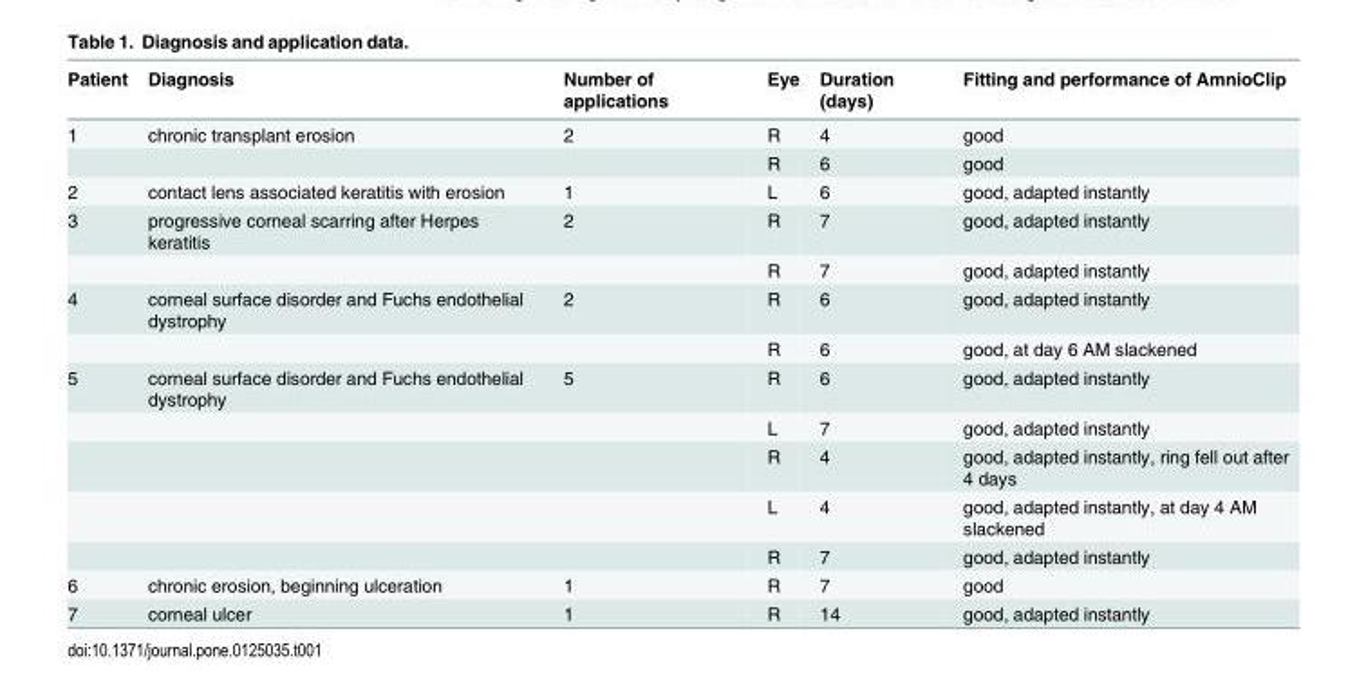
<table><thead><tr><td>Patient</td><td>Diagnosis</td><td>Number of applications</td><td>Eye</td><td>Duration (days)</td><td>Fitting and performance of AmnioClip</td></tr></thead><tbody><tr><td rowspan="2">1</td><td>chronic transplant erosion</td><td>2</td><td>R</td><td>4</td><td>good</td></tr><tr><td></td><td></td><td>R</td><td>6</td><td>good</td></tr><tr><td>2</td><td>contact lens associated keratitis with erosion</td><td>1</td><td>L</td><td>6</td><td>good, adapted instantly</td></tr><tr><td rowspan="2">3</td><td>progressive corneal scarring after Herpes keratitis</td><td>2</td><td>R</td><td>7</td><td>good, adapted instantly</td></tr><tr><td></td><td></td><td>R</td><td>7</td><td>good, adapted instantly</td></tr><tr><td rowspan="2">4</td><td>corneal surface disorder and Fuchs endothelial dystrophy</td><td>2</td><td>R</td><td>6</td><td>good, adapted instantly</td></tr><tr><td></td><td></td><td>R</td><td>6</td><td>good, at day 6 AM slackened</td></tr><tr><td rowspan="5">5</td><td>corneal surface disorder and Fuchs endothelial dystrophy</td><td>5</td><td>R</td><td>6</td><td>good, adapted instantly</td></tr><tr><td></td><td></td><td>L</td><td>7</td><td>good, adapted instantly</td></tr><tr><td></td><td></td><td>R</td><td>4</td><td>good, adapted instantly, ring fell out after 4 days</td></tr><tr><td></td><td></td><td>L</td><td>4</td><td>good, adapted instantly, at day 4 AM slackened</td></tr><tr><td></td><td></td><td>R</td><td>7</td><td>good, adapted instantly</td></tr><tr><td>6</td><td>chronic erosion, beginning ulceration</td><td>1</td><td>R</td><td>7</td><td>good</td></tr><tr><td>7</td><td>corneal ulcer</td><td>1</td><td>R</td><td>14</td><td>good, adapted instantly</td></tr></tbody></table>